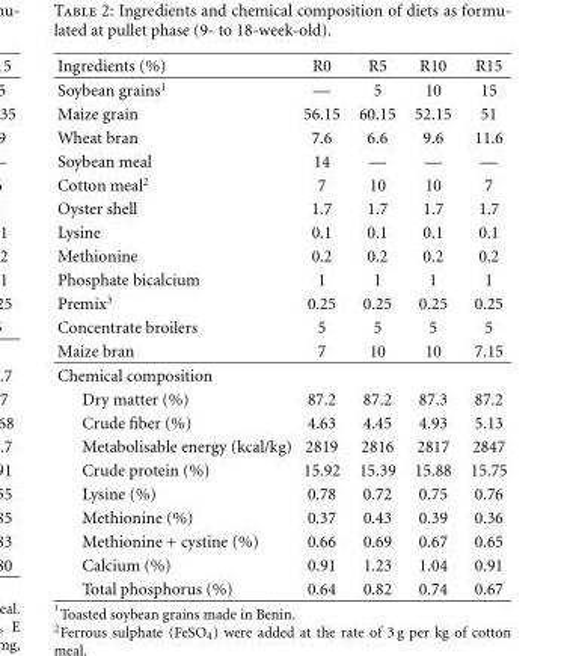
<table><thead><tr><td>Ingredients (%)</td><td>R0</td><td>R5</td><td>R10</td><td>R15</td></tr></thead><tbody><tr><td>Soybean grains<sup>1</sup></td><td>—</td><td>5</td><td>10</td><td>15</td></tr><tr><td>Maize grain</td><td>56.15</td><td>60.15</td><td>52.15</td><td>51</td></tr><tr><td>Wheat bran</td><td>7.6</td><td>6.6</td><td>9.6</td><td>11.6</td></tr><tr><td>Soybean meal</td><td>14</td><td>—</td><td>—</td><td>—</td></tr><tr><td>Cotton meal<sup>2</sup></td><td>7</td><td>10</td><td>10</td><td>7</td></tr><tr><td>Oyster shell</td><td>1.7</td><td>1.7</td><td>1.7</td><td>1.7</td></tr><tr><td>Lysine</td><td>0.1</td><td>0.1</td><td>0.1</td><td>0.1</td></tr><tr><td>Methionine</td><td>0.2</td><td>0.2</td><td>0.2</td><td>0.2</td></tr><tr><td>Phosphate bicalcium</td><td>1</td><td>1</td><td>1</td><td>1</td></tr><tr><td>Premix<sup>3</sup></td><td>0.25</td><td>0.25</td><td>0.25</td><td>0.25</td></tr><tr><td>Concentrate broilers</td><td>5</td><td>5</td><td>5</td><td>5</td></tr><tr><td>Maize bran</td><td>7</td><td>10</td><td>10</td><td>7.15</td></tr><tr><td colspan="5">Chemical composition</td></tr><tr><td>Dry matter (%)</td><td>87.2</td><td>87.2</td><td>87.3</td><td>87.2</td></tr><tr><td>Crude fiber (%)</td><td>4.63</td><td>4.45</td><td>4.93</td><td>5.13</td></tr><tr><td>Metabolisable energy (kcal/kg)</td><td>2819</td><td>2816</td><td>2817</td><td>2847</td></tr><tr><td>Crude protein (%)</td><td>15.92</td><td>15.39</td><td>15.88</td><td>15.75</td></tr><tr><td>Lysine (%)</td><td>0.78</td><td>0.72</td><td>0.75</td><td>0.76</td></tr><tr><td>Methionine (%)</td><td>0.37</td><td>0.43</td><td>0.39</td><td>0.36</td></tr><tr><td>Methionine + cystine (%)</td><td>0.66</td><td>0.69</td><td>0.67</td><td>0.65</td></tr><tr><td>Calcium (%)</td><td>0.91</td><td>1.23</td><td>1.04</td><td>0.91</td></tr><tr><td>Total phosphorus (%)</td><td>0.64</td><td>0.82</td><td>0.74</td><td>0.67</td></tr></tbody></table>